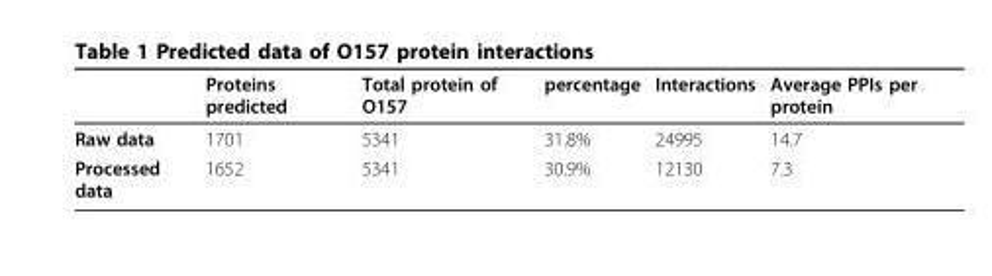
<table><thead><tr><td></td><td>Proteins predicted</td><td>Total protein of O157</td><td>percentage</td><td>Interactions</td><td>Average PPIs per protein</td></tr></thead><tbody><tr><td>Raw data</td><td>1701</td><td>5341</td><td>31.8%</td><td>24995</td><td>14.7</td></tr><tr><td>Processed data</td><td>1652</td><td>5341</td><td>30.9%</td><td>12130</td><td>7.3</td></tr></tbody></table>